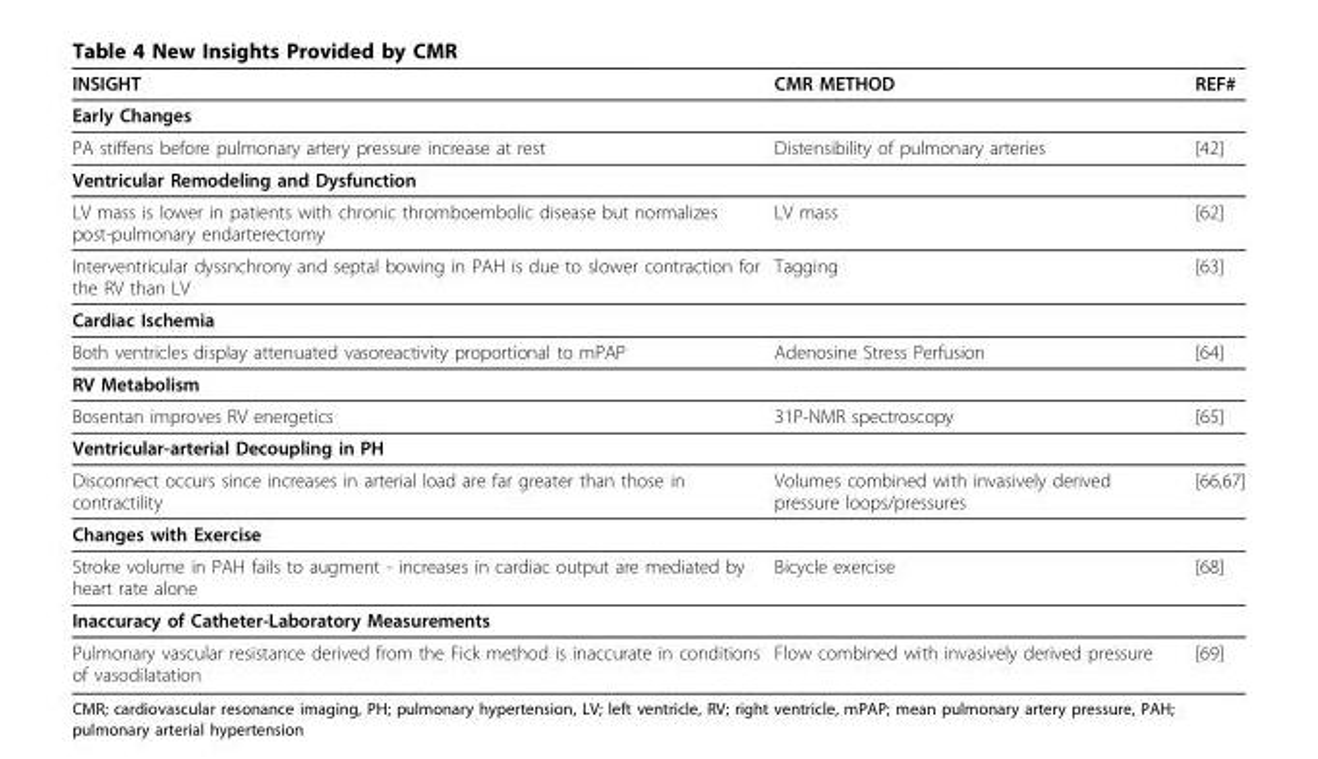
<table><thead><tr><td>INSIGHT</td><td>CMR METHOD</td><td>REF#</td></tr></thead><tbody><tr><td colspan="3">Early Changes</td></tr><tr><td>PA stiffens before pulmonary artery pressure increase at rest</td><td>Distensibility of pulmonary arteries</td><td>[42]</td></tr><tr><td colspan="3">Ventricular Remodeling and Dysfunction</td></tr><tr><td>LV mass is lower in patients with chronic thromboembolic disease but normalizes post-pulmonary endarterectomy</td><td>LV mass</td><td>[62]</td></tr><tr><td>Interventricular dyssnchrony and septal bowing in PAH is due to slower contraction for the RV than LV</td><td>Tagging</td><td>[63]</td></tr><tr><td colspan="3">Cardiac Ischemia</td></tr><tr><td>Both ventricles display attenuated vasoreactivity proportional to mPAP</td><td>Adenosine Stress Perfusion</td><td>[64]</td></tr><tr><td colspan="3">RV Metabolism</td></tr><tr><td>Bosentan improves RV energetics</td><td>31P-NMR spectroscopy</td><td>[65]</td></tr><tr><td colspan="3">Ventricular-arterial Decoupling in PH</td></tr><tr><td>Disconnect occurs since increases in arterial load are far greater than those in contractility</td><td>Volumes combined with invasively derived pressure loops/pressures</td><td>[66,67]</td></tr><tr><td colspan="3">Changes with Exercise</td></tr><tr><td>Stroke volume in PAH fails to augment - increases in cardiac output are mediated by heart rate alone</td><td>Bicycle exercise</td><td>[68]</td></tr><tr><td colspan="3">Inaccuracy of Catheter-Laboratory Measurements</td></tr><tr><td>Pulmonary vascular resistance derived from the Fick method is inaccurate in conditions of vasodilatation</td><td>Flow combined with invasively derived pressure</td><td>[69]</td></tr></tbody></table>